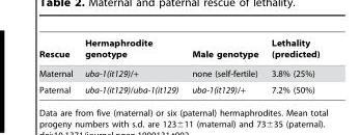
<table><thead><tr><td>Rescue</td><td>Hermaphrodite genotype</td><td>Male genotype</td><td>Lethality (predicted)</td></tr></thead><tbody><tr><td>Maternal</td><td>uba-1(it129)/+</td><td>none (self-fertile)</td><td>3.8% (25%)</td></tr><tr><td>Paternal</td><td>uba-1(it129)/uba-1(it129)</td><td>uba-1(it129)/+</td><td>7.2% (50%)</td></tr></tbody></table>